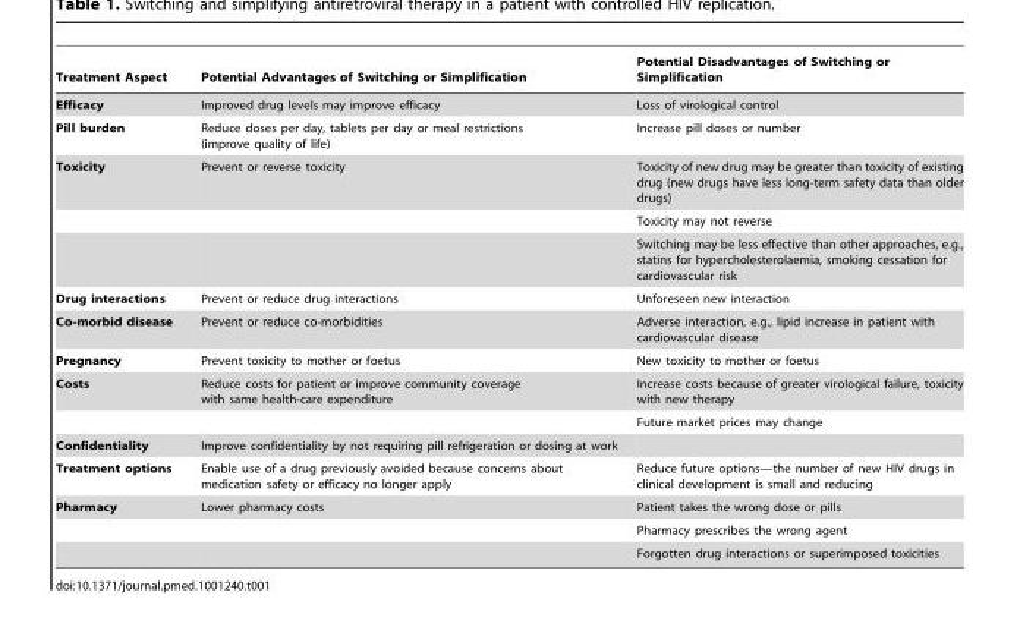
<table><thead><tr><td>Treatment Aspect</td><td>Potential Advantages of Switching or Simplification</td><td>Potential Disadvantages of Switching or Simplification</td></tr></thead><tbody><tr><td>Efficacy</td><td>Improved drug levels may improve efficacy</td><td>Loss of virological control</td></tr><tr><td>Pill burden</td><td>Reduce doses per day, tablets per day or meal restrictions (improve quality of life)</td><td>Increase pill doses or number</td></tr><tr><td rowspan="3">Toxicity</td><td>Prevent or reverse toxicity</td><td>Toxicity of new drug may be greater than toxicity of existing drug (new drugs have less long-term safety data than older drugs)</td></tr><tr><td></td><td>Toxicity may not reverse</td></tr><tr><td></td><td>Switching may be less effective than other approaches, e.g., statins for hypercholesterolaemia, smoking cessation for cardiovascular risk</td></tr><tr><td>Drug interactions</td><td>Prevent or reduce drug interactions</td><td>Unforeseen new interaction</td></tr><tr><td>Co-morbid disease</td><td>Prevent or reduce co-morbidities</td><td>Adverse interaction, e.g., lipid increase in patient with cardiovascular disease</td></tr><tr><td>Pregnancy</td><td>Prevent toxicity to mother or foetus</td><td>New toxicity to mother or foetus</td></tr><tr><td rowspan="2">Costs</td><td>Reduce costs for patient or improve community coverage with same health-care expenditure</td><td>Increase costs because of greater virological failure, toxicity with new therapy</td></tr><tr><td></td><td>Future market prices may change</td></tr><tr><td>Confidentiality</td><td>Improve confidentiality by not requiring pill refrigeration or dosing at work</td><td></td></tr><tr><td>Treatment options</td><td>Enable use of a drug previously avoided because concerns about medication safety or efficacy no longer apply</td><td>Reduce future options—the number of new HIV drugs in clinical development is small and reducing</td></tr><tr><td rowspan="3">Pharmacy</td><td>Lower pharmacy costs</td><td>Patient takes the wrong dose or pills</td></tr><tr><td></td><td>Pharmacy prescribes the wrong agent</td></tr><tr><td></td><td>Forgotten drug interactions or superimposed toxicities</td></tr></tbody></table>